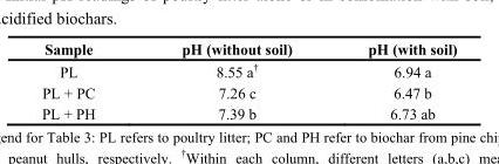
<table><thead><tr><td>Sample</td><td>pH (without soil)</td><td>pH (with soil)</td></tr></thead><tbody><tr><td>PL</td><td>8.55 a†</td><td>6.94 a</td></tr><tr><td>PL + PC</td><td>7.26 c</td><td>6.47 b</td></tr><tr><td>PL + PH</td><td>7.39 b</td><td>6.73 ab</td></tr></tbody></table>